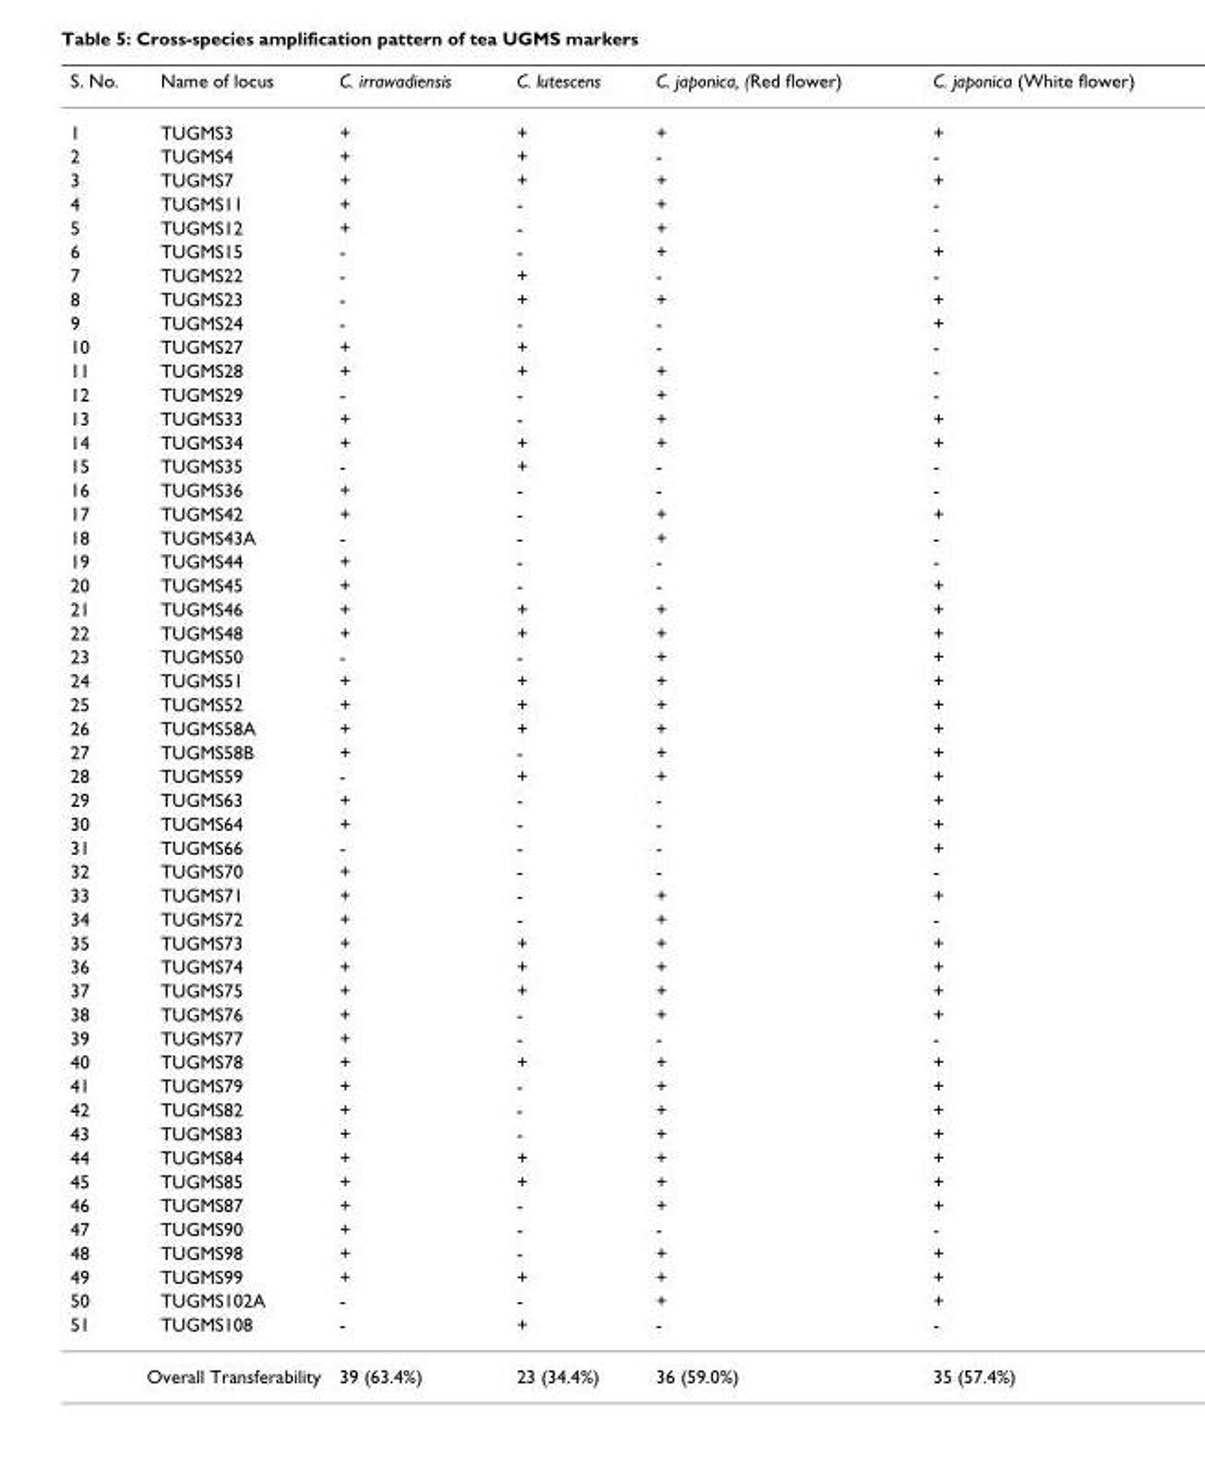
<table><thead><tr><td>S. No.</td><td>Name of locus</td><td>C. irrawadiensis</td><td>C. lutescens</td><td>C. japonica, (Red flower)</td><td>C. japonica (White flower)</td></tr></thead><tbody><tr><td>1</td><td>TUGMS3</td><td>+</td><td>+</td><td>+</td><td>+</td></tr><tr><td>2</td><td>TUGMS4</td><td>+</td><td>+</td><td>-</td><td>-</td></tr><tr><td>3</td><td>TUGMS7</td><td>+</td><td>+</td><td>+</td><td>+</td></tr><tr><td>4</td><td>TUGMS11</td><td>+</td><td>-</td><td>+</td><td>-</td></tr><tr><td>5</td><td>TUGMS12</td><td>+</td><td>-</td><td>+</td><td>-</td></tr><tr><td>6</td><td>TUGMS15</td><td>-</td><td>-</td><td>+</td><td>+</td></tr><tr><td>7</td><td>TUGMS22</td><td>-</td><td>+</td><td>-</td><td>-</td></tr><tr><td>8</td><td>TUGMS23</td><td>-</td><td>+</td><td>+</td><td>+</td></tr><tr><td>9</td><td>TUGMS24</td><td>-</td><td>-</td><td>-</td><td>+</td></tr><tr><td>10</td><td>TUGMS27</td><td>+</td><td>+</td><td>-</td><td>-</td></tr><tr><td>11</td><td>TUGMS28</td><td>+</td><td>+</td><td>+</td><td>-</td></tr><tr><td>12</td><td>TUGMS29</td><td>-</td><td>-</td><td>+</td><td>-</td></tr><tr><td>13</td><td>TUGMS33</td><td>+</td><td>-</td><td>+</td><td>+</td></tr><tr><td>14</td><td>TUGMS34</td><td>+</td><td>+</td><td>+</td><td>+</td></tr><tr><td>15</td><td>TUGMS35</td><td>-</td><td>+</td><td>-</td><td>-</td></tr><tr><td>16</td><td>TUGMS36</td><td>+</td><td>-</td><td>-</td><td>-</td></tr><tr><td>17</td><td>TUGMS42</td><td>+</td><td>-</td><td>+</td><td>+</td></tr><tr><td>18</td><td>TUGMS43A</td><td>-</td><td>-</td><td>+</td><td>-</td></tr><tr><td>19</td><td>TUGMS44</td><td>+</td><td>-</td><td>-</td><td>-</td></tr><tr><td>20</td><td>TUGMS45</td><td>+</td><td>-</td><td>-</td><td>+</td></tr><tr><td>21</td><td>TUGMS46</td><td>+</td><td>+</td><td>+</td><td>+</td></tr><tr><td>22</td><td>TUGMS48</td><td>+</td><td>+</td><td>+</td><td>+</td></tr><tr><td>23</td><td>TUGMS50</td><td>-</td><td>-</td><td>+</td><td>+</td></tr><tr><td>24</td><td>TUGMS51</td><td>+</td><td>+</td><td>+</td><td>+</td></tr><tr><td>25</td><td>TUGMS52</td><td>+</td><td>+</td><td>+</td><td>+</td></tr><tr><td>26</td><td>TUGMS58A</td><td>+</td><td>+</td><td>+</td><td>+</td></tr><tr><td>27</td><td>TUGMS58B</td><td>+</td><td>-</td><td>+</td><td>+</td></tr><tr><td>28</td><td>TUGMS59</td><td>-</td><td>+</td><td>+</td><td>+</td></tr><tr><td>29</td><td>TUGMS63</td><td>+</td><td>-</td><td>-</td><td>+</td></tr><tr><td>30</td><td>TUGMS64</td><td>+</td><td>-</td><td>-</td><td>+</td></tr><tr><td>31</td><td>TUGMS66</td><td>-</td><td>-</td><td>-</td><td>+</td></tr><tr><td>32</td><td>TUGMS70</td><td>+</td><td>-</td><td>-</td><td>-</td></tr><tr><td>33</td><td>TUGMS71</td><td>+</td><td>-</td><td>+</td><td>+</td></tr><tr><td>34</td><td>TUGMS72</td><td>+</td><td>-</td><td>+</td><td>-</td></tr><tr><td>35</td><td>TUGMS73</td><td>+</td><td>+</td><td>+</td><td>+</td></tr><tr><td>36</td><td>TUGMS74</td><td>+</td><td>+</td><td>+</td><td>+</td></tr><tr><td>37</td><td>TUGMS75</td><td>+</td><td>+</td><td>+</td><td>+</td></tr><tr><td>38</td><td>TUGMS76</td><td>+</td><td>-</td><td>+</td><td>+</td></tr><tr><td>39</td><td>TUGMS77</td><td>+</td><td>-</td><td>-</td><td>-</td></tr><tr><td>40</td><td>TUGMS78</td><td>+</td><td>+</td><td>+</td><td>+</td></tr><tr><td>41</td><td>TUGMS79</td><td>+</td><td>-</td><td>+</td><td>+</td></tr><tr><td>42</td><td>TUGMS82</td><td>+</td><td>-</td><td>+</td><td>+</td></tr><tr><td>43</td><td>TUGMS83</td><td>+</td><td>-</td><td>+</td><td>+</td></tr><tr><td>44</td><td>TUGMS84</td><td>+</td><td>+</td><td>+</td><td>+</td></tr><tr><td>45</td><td>TUGMS85</td><td>+</td><td>+</td><td>+</td><td>+</td></tr><tr><td>46</td><td>TUGMS87</td><td>+</td><td>-</td><td>+</td><td>+</td></tr><tr><td>47</td><td>TUGMS90</td><td>+</td><td>-</td><td>-</td><td>-</td></tr><tr><td>48</td><td>TUGMS98</td><td>+</td><td>-</td><td>+</td><td>+</td></tr><tr><td>49</td><td>TUGMS99</td><td>+</td><td>+</td><td>+</td><td>+</td></tr><tr><td>50</td><td>TUGMS102A</td><td>-</td><td>-</td><td>+</td><td>+</td></tr><tr><td>51</td><td>TUGMS108</td><td>-</td><td>+</td><td>-</td><td>-</td></tr><tr><td colspan="2">Overall Transferability</td><td>39 (63.4%)</td><td>23 (34.4%)</td><td>36 (59.0%)</td><td>35 (57.4%)</td></tr></tbody></table>